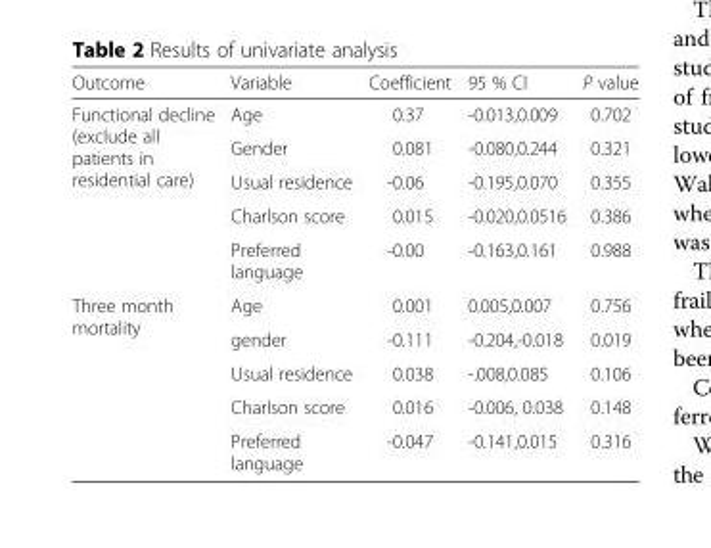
<table><thead><tr><td>Outcome</td><td>Variable</td><td>Coefficient</td><td>95 % CI</td><td>P value</td></tr></thead><tbody><tr><td rowspan="5">Functional decline (exclude all patients in residential care)</td><td>Age</td><td>0.37</td><td>-0.013,0.009</td><td>0.702</td></tr><tr><td>Gender</td><td>0.081</td><td>-0.080,0.244</td><td>0.321</td></tr><tr><td>Usual residence</td><td>-0.06</td><td>-0.195,0.070</td><td>0.355</td></tr><tr><td>Charlson score</td><td>0.015</td><td>-0.020,0.0516</td><td>0.386</td></tr><tr><td>Preferred language</td><td>-0.00</td><td>-0.163,0.161</td><td>0.988</td></tr><tr><td rowspan="5">Three month mortality</td><td>Age</td><td>0.001</td><td>0.005,0.007</td><td>0.756</td></tr><tr><td>gender</td><td>-0.111</td><td>-0.204,-0.018</td><td>0.019</td></tr><tr><td>Usual residence</td><td>0.038</td><td>-.008,0.085</td><td>0.106</td></tr><tr><td>Charlson score</td><td>0.016</td><td>-0.006, 0.038</td><td>0.148</td></tr><tr><td>Preferred language</td><td>-0.047</td><td>-0.141,0.015</td><td>0.316</td></tr></tbody></table>